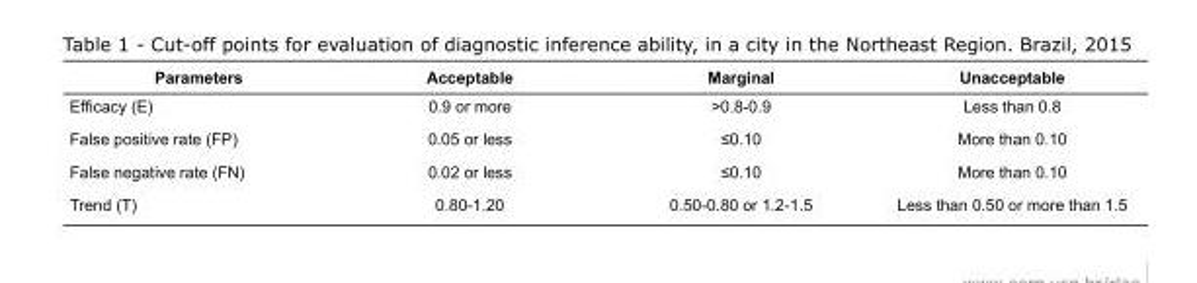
<table><tbody><tr><td>Parameters</td><td>Acceptable</td><td>Marginal</td><td>Unacceptable</td></tr><tr><td>Efficacy (E)</td><td>0.9 or more</td><td>&gt;0.8-0.9</td><td>Less than 0.8</td></tr><tr><td>False positive rate (FP)</td><td>0.05 or less</td><td>≤0.10</td><td>More than 0.10</td></tr><tr><td>False negative rate (FN)</td><td>0.02 or less</td><td>≤0.10</td><td>More than 0.10</td></tr><tr><td>Trend (T)</td><td>0.80-1.20</td><td>0.50-0.80 or 1.2-1.5</td><td>Less than 0.50 or more than 1.5</td></tr></tbody></table>